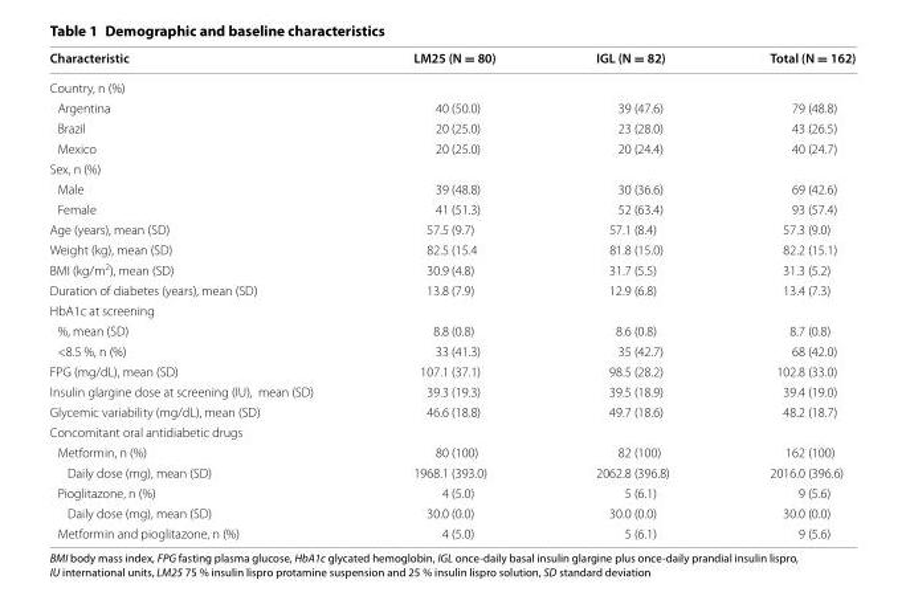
<table><thead><tr><td>Characteristic</td><td>LM25 (N = 80)</td><td>IGL (N = 82)</td><td>Total (N = 162)</td></tr></thead><tbody><tr><td colspan="4">Country, n (%)</td></tr><tr><td>Argentina</td><td>40 (50.0)</td><td>39 (47.6)</td><td>79 (48.8)</td></tr><tr><td>Brazil</td><td>20 (25.0)</td><td>23 (28.0)</td><td>43 (26.5)</td></tr><tr><td>Mexico</td><td>20 (25.0)</td><td>20 (24.4)</td><td>40 (24.7)</td></tr><tr><td colspan="4">Sex, n (%)</td></tr><tr><td>Male</td><td>39 (48.8)</td><td>30 (36.6)</td><td>69 (42.6)</td></tr><tr><td>Female</td><td>41 (51.3)</td><td>52 (63.4)</td><td>93 (57.4)</td></tr><tr><td>Age (years), mean (SD)</td><td>57.5 (9.7)</td><td>57.1 (8.4)</td><td>57.3 (9.0)</td></tr><tr><td>Weight (kg), mean (SD)</td><td>82.5 (15.4</td><td>81.8 (15.0)</td><td>82.2 (15.1)</td></tr><tr><td>BMI (kg/m<sup>2</sup>), mean (SD)</td><td>30.9 (4.8)</td><td>31.7 (5.5)</td><td>31.3 (5.2)</td></tr><tr><td>Duration of diabetes (years), mean (SD)</td><td>13.8 (7.9)</td><td>12.9 (6.8)</td><td>13.4 (7.3)</td></tr><tr><td colspan="4">HbA1c at screening</td></tr><tr><td>%, mean (SD)</td><td>8.8 (0.8)</td><td>8.6 (0.8)</td><td>8.7 (0.8)</td></tr><tr><td>&lt;8.5 %, n (%)</td><td>33 (41.3)</td><td>35 (42.7)</td><td>68 (42.0)</td></tr><tr><td>FPG (mg/dL), mean (SD)</td><td>107.1 (37.1)</td><td>98.5 (28.2)</td><td>102.8 (33.0)</td></tr><tr><td>Insulin glargine dose at screening (IU), mean (SD)</td><td>39.3 (19.3)</td><td>39.5 (18.9)</td><td>39.4 (19.0)</td></tr><tr><td>Glycemic variability (mg/dL), mean (SD)</td><td>46.6 (18.8)</td><td>49.7 (18.6)</td><td>48.2 (18.7)</td></tr><tr><td colspan="4">Concomitant oral antidiabetic drugs</td></tr><tr><td>Metformin, n (%)</td><td>80 (100)</td><td>82 (100)</td><td>162 (100)</td></tr><tr><td>Daily dose (mg), mean (SD)</td><td>1968.1 (393.0)</td><td>2062.8 (396.8)</td><td>2016.0 (396.6)</td></tr><tr><td>Pioglitazone, n (%)</td><td>4 (5.0)</td><td>5 (6.1)</td><td>9 (5.6)</td></tr><tr><td>Daily dose (mg), mean (SD)</td><td>30.0 (0.0)</td><td>30.0 (0.0)</td><td>30.0 (0.0)</td></tr><tr><td>Metformin and pioglitazone, n (%)</td><td>4 (5.0)</td><td>5 (6.1)</td><td>9 (5.6)</td></tr></tbody></table>